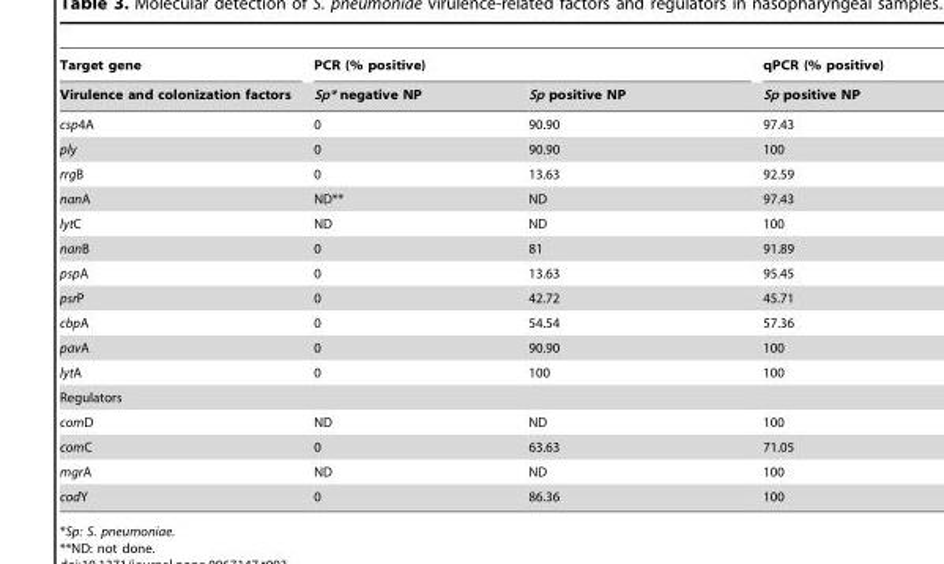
<table><thead><tr><td rowspan="2">Target gene Virulence and colonization factors</td><td colspan="2">PCR (% positive)</td><td rowspan="2">qPCR (% positive) Sp positive NP</td></tr><tr><td>Sp* negative NP</td><td>Sp positive NP</td></tr></thead><tbody><tr><td>csp4A</td><td>0</td><td>90.90</td><td>97.43</td></tr><tr><td>ply</td><td>0</td><td>90.90</td><td>100</td></tr><tr><td>rrgB</td><td>0</td><td>13.63</td><td>92.59</td></tr><tr><td>nanA</td><td>ND**</td><td>ND</td><td>97.43</td></tr><tr><td>lytC</td><td>ND</td><td>ND</td><td>100</td></tr><tr><td>nanB</td><td>0</td><td>81</td><td>91.89</td></tr><tr><td>pspA</td><td>0</td><td>13.63</td><td>95.45</td></tr><tr><td>psrP</td><td>0</td><td>42.72</td><td>45.71</td></tr><tr><td>cbpA</td><td>0</td><td>54.54</td><td>57.36</td></tr><tr><td>pavA</td><td>0</td><td>90.90</td><td>100</td></tr><tr><td>lytA</td><td>0</td><td>100</td><td>100</td></tr><tr><td colspan="4">Regulators</td></tr><tr><td>comD</td><td>ND</td><td>ND</td><td>100</td></tr><tr><td>comC</td><td>0</td><td>63.63</td><td>71.05</td></tr><tr><td>mgrA</td><td>ND</td><td>ND</td><td>100</td></tr><tr><td>codY</td><td>0</td><td>86.36</td><td>100</td></tr></tbody></table>